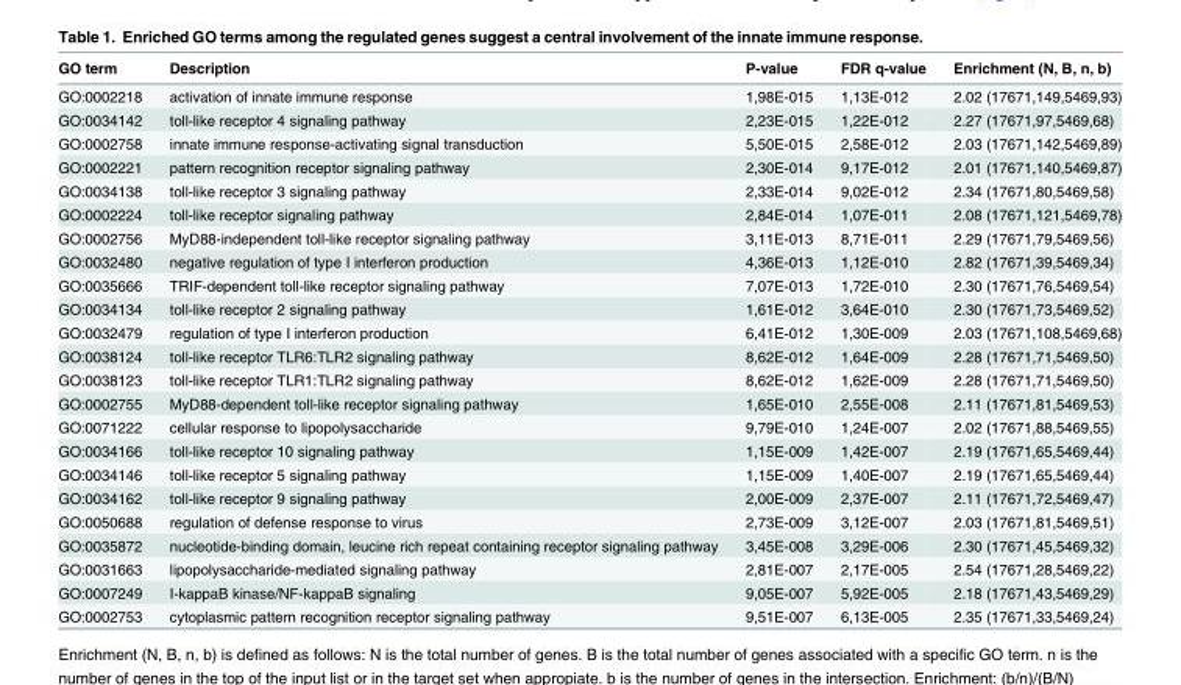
<table><thead><tr><td>GO term</td><td>Description</td><td>P-value</td><td>FDR q-value</td><td>Enrichment (N, B, n, b)</td></tr></thead><tbody><tr><td>GO:0002218</td><td>activation of innate immune response</td><td>1,98E-015</td><td>1,13E-012</td><td>2.02 (17671,149,5469,93)</td></tr><tr><td>GO:0034142</td><td>toll-like receptor 4 signaling pathway</td><td>2,23E-015</td><td>1,22E-012</td><td>2.27 (17671,97,5469,68)</td></tr><tr><td>GO:0002758</td><td>innate immune response-activating signal transduction</td><td>5,50E-015</td><td>2,58E-012</td><td>2.03 (17671,142,5469,89)</td></tr><tr><td>GO:0002221</td><td>pattern recognition receptor signaling pathway</td><td>2,30E-014</td><td>9,17E-012</td><td>2.01 (17671,140,5469,87)</td></tr><tr><td>GO:0034138</td><td>toll-like receptor 3 signaling pathway</td><td>2,33E-014</td><td>9,02E-012</td><td>2.34 (17671,80,5469,58)</td></tr><tr><td>GO:0002224</td><td>toll-like receptor signaling pathway</td><td>2,84E-014</td><td>1,07E-011</td><td>2.08 (17671,121,5469,78)</td></tr><tr><td>GO:0002756</td><td>MyD88-independent toll-like receptor signaling pathway</td><td>3,11E-013</td><td>8,71E-011</td><td>2.29 (17671,79,5469,56)</td></tr><tr><td>GO:0032480</td><td>negative regulation of type I interferon production</td><td>4,36E-013</td><td>1,12E-010</td><td>2.82 (17671,39,5469,34)</td></tr><tr><td>GO:0035666</td><td>TRIF-dependent toll-like receptor signaling pathway</td><td>7,07E-013</td><td>1,72E-010</td><td>2.30 (17671,76,5469,54)</td></tr><tr><td>GO:0034134</td><td>toll-like receptor 2 signaling pathway</td><td>1,61E-012</td><td>3,64E-010</td><td>2.30 (17671,73,5469,52)</td></tr><tr><td>GO:0032479</td><td>regulation of type I interferon production</td><td>6,41E-012</td><td>1,30E-009</td><td>2.03 (17671,108,5469,68)</td></tr><tr><td>GO:0038124</td><td>toll-like receptor TLR6:TLR2 signaling pathway</td><td>8,62E-012</td><td>1,64E-009</td><td>2.28 (17671,71,5469,50)</td></tr><tr><td>GO:0038123</td><td>toll-like receptor TLR1:TLR2 signaling pathway</td><td>8,62E-012</td><td>1,62E-009</td><td>2.28 (17671,71,5469,50)</td></tr><tr><td>GO:0002755</td><td>MyD88-dependent toll-like receptor signaling pathway</td><td>1,65E-010</td><td>2,55E-008</td><td>2.11 (17671,81,5469,53)</td></tr><tr><td>GO:0071222</td><td>cellular response to lipopolysaccharide</td><td>9,79E-010</td><td>1,24E-007</td><td>2.02 (17671,88,5469,55)</td></tr><tr><td>GO:0034166</td><td>toll-like receptor 10 signaling pathway</td><td>1,15E-009</td><td>1,42E-007</td><td>2.19 (17671,65,5469,44)</td></tr><tr><td>GO:0034146</td><td>toll-like receptor 5 signaling pathway</td><td>1,15E-009</td><td>1,40E-007</td><td>2.19 (17671,65,5469,44)</td></tr><tr><td>GO:0034162</td><td>toll-like receptor 9 signaling pathway</td><td>2,00E-009</td><td>2,37E-007</td><td>2.11 (17671,72,5469,47)</td></tr><tr><td>GO:0050688</td><td>regulation of defense response to virus</td><td>2,73E-009</td><td>3,12E-007</td><td>2.03 (17671,81,5469,51)</td></tr><tr><td>GO:0035872</td><td>nucleotide-binding domain, leucine rich repeat containing receptor signaling pathway</td><td>3,45E-008</td><td>3,29E-006</td><td>2.30 (17671,45,5469,32)</td></tr><tr><td>GO:0031663</td><td>lipopolysaccharide-mediated signaling pathway</td><td>2,81E-007</td><td>2,17E-005</td><td>2.54 (17671,28,5469,22)</td></tr><tr><td>GO:0007249</td><td>I-kappaB kinase/NF-kappaB signaling</td><td>9,05E-007</td><td>5,92E-005</td><td>2.18 (17671,43,5469,29)</td></tr><tr><td>GO:0002753</td><td>cytoplasmic pattern recognition receptor signaling pathway</td><td>9,51E-007</td><td>6,13E-005</td><td>2.35 (17671,33,5469,24)</td></tr></tbody></table>